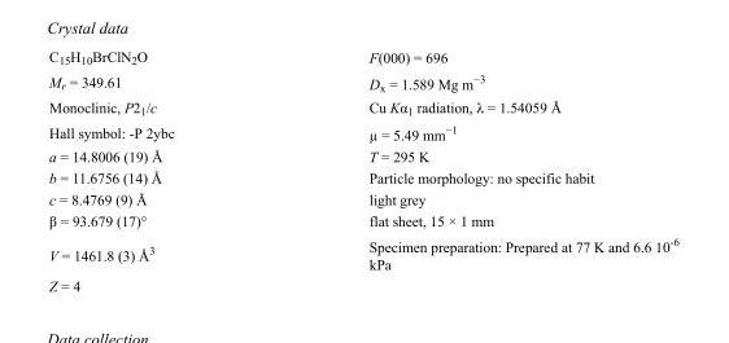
<table><tbody><tr><td>C<sub>15</sub>H<sub>10</sub>BrClN<sub>2</sub>O</td><td>F(000) = 696</td></tr><tr><td>M<sub>r</sub> = 349.61</td><td>D<sub>x</sub> = 1.589 Mg m<sup>−3</sup></td></tr><tr><td>Monoclinic, P2<sub>1</sub>/c</td><td>Cu Kα<sub>1</sub> radiation, λ = 1.54059 Å</td></tr><tr><td>Hall symbol: -P 2ybc</td><td>µ = 5.49 mm<sup>−1</sup></td></tr><tr><td>a = 14.8006 (19) Å</td><td>T = 295 K</td></tr><tr><td>b = 11.6756 (14) Å</td><td>Particle morphology: no specific habit</td></tr><tr><td>c = 8.4769 (9) Å</td><td>light grey</td></tr><tr><td>β = 93.679 (17)°</td><td>flat sheet, 15 × 1 mm</td></tr><tr><td>V = 1461.8 (3) Å<sup>3</sup></td><td>Specimen preparation: Prepared at 77 K and 6.6 10<sup>-6</sup> kPa</td></tr><tr><td>Z = 4</td><td></td></tr></tbody></table>